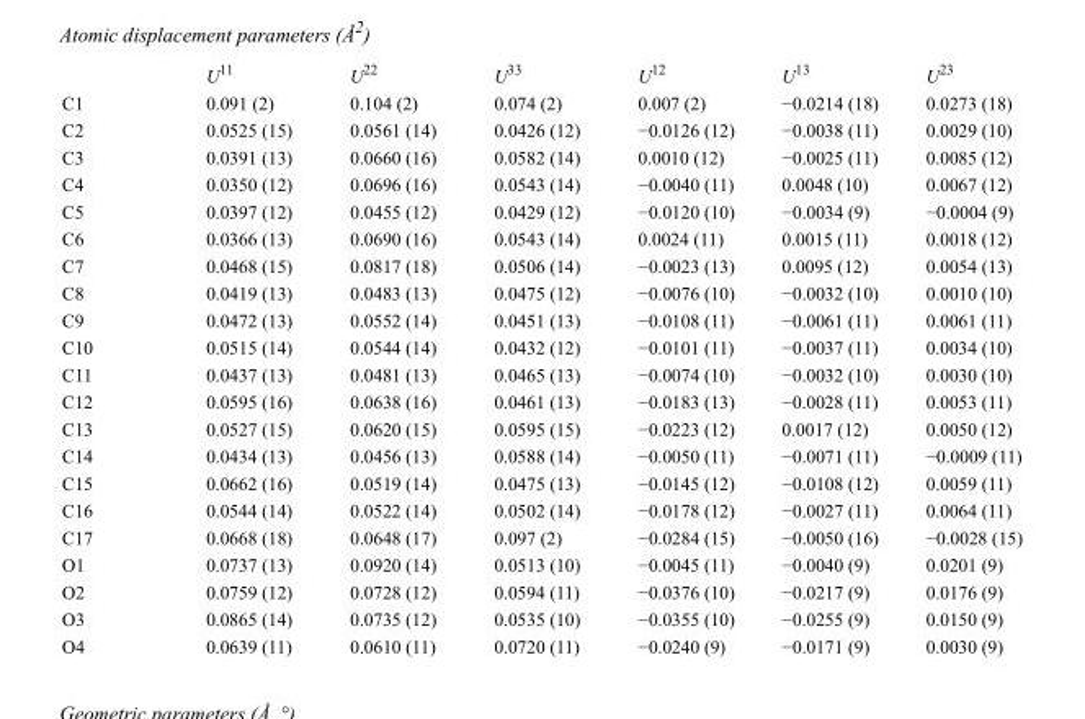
<table><thead><tr><td></td><td>U<sup>11</sup></td><td>U<sup>22</sup></td><td>U<sup>33</sup></td><td>U<sup>12</sup></td><td>U<sup>13</sup></td><td>U<sup>23</sup></td></tr></thead><tbody><tr><td>C1</td><td>0.091 (2)</td><td>0.104 (2)</td><td>0.074 (2)</td><td>0.007 (2)</td><td>−0.0214 (18)</td><td>0.0273 (18)</td></tr><tr><td>C2</td><td>0.0525 (15)</td><td>0.0561 (14)</td><td>0.0426 (12)</td><td>−0.0126 (12)</td><td>−0.0038 (11)</td><td>0.0029 (10)</td></tr><tr><td>C3</td><td>0.0391 (13)</td><td>0.0660 (16)</td><td>0.0582 (14)</td><td>0.0010 (12)</td><td>−0.0025 (11)</td><td>0.0085 (12)</td></tr><tr><td>C4</td><td>0.0350 (12)</td><td>0.0696 (16)</td><td>0.0543 (14)</td><td>−0.0040 (11)</td><td>0.0048 (10)</td><td>0.0067 (12)</td></tr><tr><td>C5</td><td>0.0397 (12)</td><td>0.0455 (12)</td><td>0.0429 (12)</td><td>−0.0120 (10)</td><td>−0.0034 (9)</td><td>−0.0004 (9)</td></tr><tr><td>C6</td><td>0.0366 (13)</td><td>0.0690 (16)</td><td>0.0543 (14)</td><td>0.0024 (11)</td><td>0.0015 (11)</td><td>0.0018 (12)</td></tr><tr><td>C7</td><td>0.0468 (15)</td><td>0.0817 (18)</td><td>0.0506 (14)</td><td>−0.0023 (13)</td><td>0.0095 (12)</td><td>0.0054 (13)</td></tr><tr><td>C8</td><td>0.0419 (13)</td><td>0.0483 (13)</td><td>0.0475 (12)</td><td>−0.0076 (10)</td><td>−0.0032 (10)</td><td>0.0010 (10)</td></tr><tr><td>C9</td><td>0.0472 (13)</td><td>0.0552 (14)</td><td>0.0451 (13)</td><td>−0.0108 (11)</td><td>−0.0061 (11)</td><td>0.0061 (11)</td></tr><tr><td>C10</td><td>0.0515 (14)</td><td>0.0544 (14)</td><td>0.0432 (12)</td><td>−0.0101 (11)</td><td>−0.0037 (11)</td><td>0.0034 (10)</td></tr><tr><td>C11</td><td>0.0437 (13)</td><td>0.0481 (13)</td><td>0.0465 (13)</td><td>−0.0074 (10)</td><td>−0.0032 (10)</td><td>0.0030 (10)</td></tr><tr><td>C12</td><td>0.0595 (16)</td><td>0.0638 (16)</td><td>0.0461 (13)</td><td>−0.0183 (13)</td><td>−0.0028 (11)</td><td>0.0053 (11)</td></tr><tr><td>C13</td><td>0.0527 (15)</td><td>0.0620 (15)</td><td>0.0595 (15)</td><td>−0.0223 (12)</td><td>0.0017 (12)</td><td>0.0050 (12)</td></tr><tr><td>C14</td><td>0.0434 (13)</td><td>0.0456 (13)</td><td>0.0588 (14)</td><td>−0.0050 (11)</td><td>−0.0071 (11)</td><td>−0.0009 (11)</td></tr><tr><td>C15</td><td>0.0662 (16)</td><td>0.0519 (14)</td><td>0.0475 (13)</td><td>−0.0145 (12)</td><td>−0.0108 (12)</td><td>0.0059 (11)</td></tr><tr><td>C16</td><td>0.0544 (14)</td><td>0.0522 (14)</td><td>0.0502 (14)</td><td>−0.0178 (12)</td><td>−0.0027 (11)</td><td>0.0064 (11)</td></tr><tr><td>C17</td><td>0.0668 (18)</td><td>0.0648 (17)</td><td>0.097 (2)</td><td>−0.0284 (15)</td><td>−0.0050 (16)</td><td>−0.0028 (15)</td></tr><tr><td>O1</td><td>0.0737 (13)</td><td>0.0920 (14)</td><td>0.0513 (10)</td><td>−0.0045 (11)</td><td>−0.0040 (9)</td><td>0.0201 (9)</td></tr><tr><td>O2</td><td>0.0759 (12)</td><td>0.0728 (12)</td><td>0.0594 (11)</td><td>−0.0376 (10)</td><td>−0.0217 (9)</td><td>0.0176 (9)</td></tr><tr><td>O3</td><td>0.0865 (14)</td><td>0.0735 (12)</td><td>0.0535 (10)</td><td>−0.0355 (10)</td><td>−0.0255 (9)</td><td>0.0150 (9)</td></tr><tr><td>O4</td><td>0.0639 (11)</td><td>0.0610 (11)</td><td>0.0720 (11)</td><td>−0.0240 (9)</td><td>−0.0171 (9)</td><td>0.0030 (9)</td></tr></tbody></table>